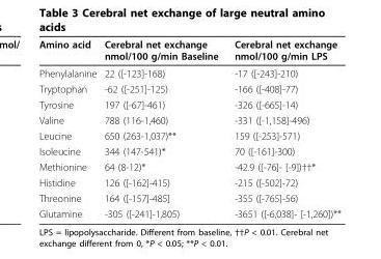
<table><thead><tr><td>Amino acid</td><td>Cerebral net exchange nmol/100 g/min Baseline</td><td>Cerebral net exchange nmol/100 g/min LPS</td></tr></thead><tbody><tr><td>Phenylalanine</td><td>22 ([-123]-168)</td><td>-17 ([-243]-210)</td></tr><tr><td>Tryptophan</td><td>-62 ([-251]-125)</td><td>-166 ([-408]-77)</td></tr><tr><td>Tyrosine</td><td>197 ([-67]-461)</td><td>-326 ([-665]-14)</td></tr><tr><td>Valine</td><td>788 (116-1,460)</td><td>-331 ([-1,158]-496)</td></tr><tr><td>Leucine</td><td>650 (263-1,037)**</td><td>159 ([-253]-571)</td></tr><tr><td>Isoleucine</td><td>344 (147-541)*</td><td>70 ([-161]-300)</td></tr><tr><td>Methionine</td><td>64 (8-12)*</td><td>-42.9 ([-76]- [-9])††*</td></tr><tr><td>Histidine</td><td>126 ([-162]-415)</td><td>-215 ([-502]-72)</td></tr><tr><td>Threonine</td><td>164 ([-157]-485]</td><td>-355 ([-765]-56)</td></tr><tr><td>Glutamine</td><td>-305 ([-241]-1,805)</td><td>-3651 ([-6,038]- [-1,260])**</td></tr></tbody></table>